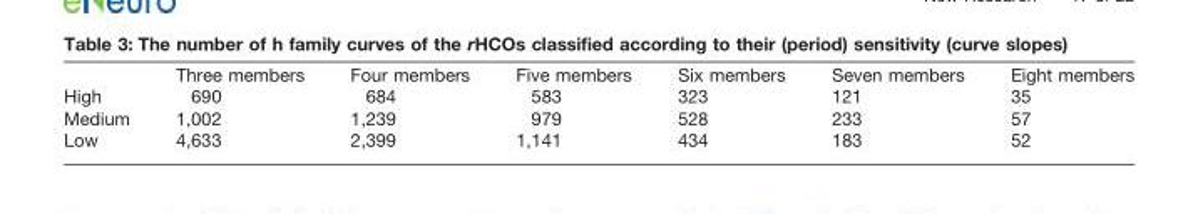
<table><thead><tr><td></td><td>Three members</td><td>Four members</td><td>Five members</td><td>Six members</td><td>Seven members</td><td>Eight members</td></tr></thead><tbody><tr><td>High</td><td>690</td><td>684</td><td>583</td><td>323</td><td>121</td><td>35</td></tr><tr><td>Medium</td><td>1,002</td><td>1,239</td><td>979</td><td>528</td><td>233</td><td>57</td></tr><tr><td>Low</td><td>4,633</td><td>2,399</td><td>1,141</td><td>434</td><td>183</td><td>52</td></tr></tbody></table>